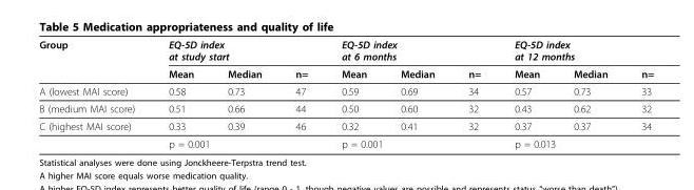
<table><thead><tr><td rowspan="2">Group</td><td colspan="3">EQ-5D index at study start</td><td colspan="3">EQ-5D index at 6 months</td><td colspan="3">EQ-5D index at 12 months</td></tr><tr><td>Mean</td><td>Median</td><td>n=</td><td>Mean</td><td>Median</td><td>n=</td><td>Mean</td><td>Median</td><td>n=</td></tr></thead><tbody><tr><td>A (lowest MAI score)</td><td>0.58</td><td>0.73</td><td>47</td><td>0.59</td><td>0.69</td><td>34</td><td>0.57</td><td>0.73</td><td>33</td></tr><tr><td>B (medium MAI score)</td><td>0.51</td><td>0.66</td><td>44</td><td>0.50</td><td>0.60</td><td>32</td><td>0.43</td><td>0.62</td><td>32</td></tr><tr><td rowspan="2">C (highest MAI score)</td><td>0.33</td><td>0.39</td><td>46</td><td>0.32</td><td>0.41</td><td>32</td><td>0.37</td><td>0.37</td><td>34</td></tr><tr><td colspan="3">p = 0.001</td><td colspan="3">p = 0.001</td><td colspan="3">p = 0.013</td></tr></tbody></table>